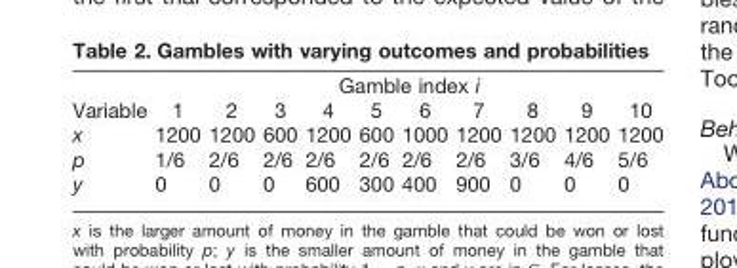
<table><thead><tr><td rowspan="2">Variable</td><td colspan="10">Gamble index i</td></tr><tr><td>1</td><td>2</td><td>3</td><td>4</td><td>5</td><td>6</td><td>7</td><td>8</td><td>9</td><td>10</td></tr></thead><tbody><tr><td>x</td><td>1200</td><td>1200</td><td>600</td><td>1200</td><td>600</td><td>1000</td><td>1200</td><td>1200</td><td>1200</td><td>1200</td></tr><tr><td>p</td><td>1/6</td><td>2/6</td><td>2/6</td><td>2/6</td><td>2/6</td><td>2/6</td><td>2/6</td><td>3/6</td><td>4/6</td><td>5/6</td></tr><tr><td>y</td><td>0</td><td>0</td><td>0</td><td>600</td><td>300</td><td>400</td><td>900</td><td>0</td><td>0</td><td>0</td></tr></tbody></table>